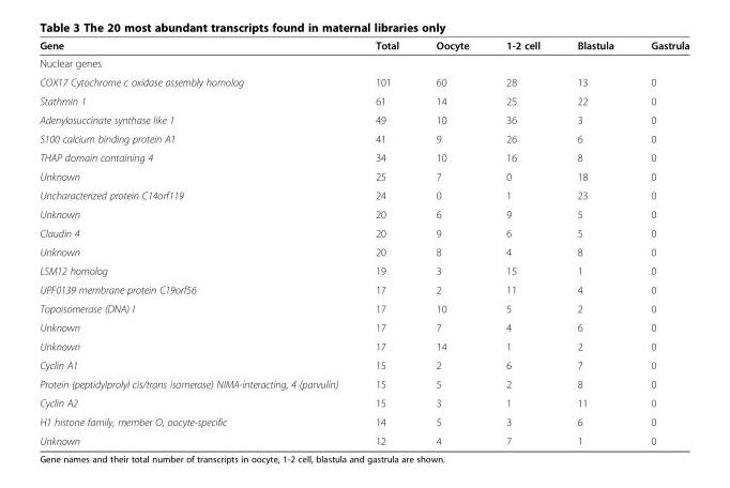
<table><thead><tr><td>Gene</td><td>Total</td><td>Oocyte</td><td>1-2 cell</td><td>Blastula</td><td>Gastrula</td></tr></thead><tbody><tr><td colspan="6">Nuclear genes</td></tr><tr><td>COX17 Cytochrome c oxidase assembly homolog</td><td>101</td><td>60</td><td>28</td><td>13</td><td>0</td></tr><tr><td>Stathmin 1</td><td>61</td><td>14</td><td>25</td><td>22</td><td>0</td></tr><tr><td>Adenylosuccinate synthase like 1</td><td>49</td><td>10</td><td>36</td><td>3</td><td>0</td></tr><tr><td>S100 calcium binding protein A1</td><td>41</td><td>9</td><td>26</td><td>6</td><td>0</td></tr><tr><td>THAP domain containing 4</td><td>34</td><td>10</td><td>16</td><td>8</td><td>0</td></tr><tr><td>Unknown</td><td>25</td><td>7</td><td>0</td><td>18</td><td>0</td></tr><tr><td>Uncharacterized protein C14orf119</td><td>24</td><td>0</td><td>1</td><td>23</td><td>0</td></tr><tr><td>Unknown</td><td>20</td><td>6</td><td>9</td><td>5</td><td>0</td></tr><tr><td>Claudin 4</td><td>20</td><td>9</td><td>6</td><td>5</td><td>0</td></tr><tr><td>Unknown</td><td>20</td><td>8</td><td>4</td><td>8</td><td>0</td></tr><tr><td>LSM12 homolog</td><td>19</td><td>3</td><td>15</td><td>1</td><td>0</td></tr><tr><td>UPF0139 membrane protein C19orf56</td><td>17</td><td>2</td><td>11</td><td>4</td><td>0</td></tr><tr><td>Topoisomerase (DNA) I</td><td>17</td><td>10</td><td>5</td><td>2</td><td>0</td></tr><tr><td>Unknown</td><td>17</td><td>7</td><td>4</td><td>6</td><td>0</td></tr><tr><td>Unknown</td><td>17</td><td>14</td><td>1</td><td>2</td><td>0</td></tr><tr><td>Cyclin A1</td><td>15</td><td>2</td><td>6</td><td>7</td><td>0</td></tr><tr><td>Protein (peptidylprolyl cis/trans isomerase) NIMA-interacting, 4 (parvulin)</td><td>15</td><td>5</td><td>2</td><td>8</td><td>0</td></tr><tr><td>Cyclin A2</td><td>15</td><td>3</td><td>1</td><td>11</td><td>0</td></tr><tr><td>H1 histone family, member O, oocyte-specific</td><td>14</td><td>5</td><td>3</td><td>6</td><td>0</td></tr><tr><td>Unknown</td><td>12</td><td>4</td><td>7</td><td>1</td><td>0</td></tr></tbody></table>